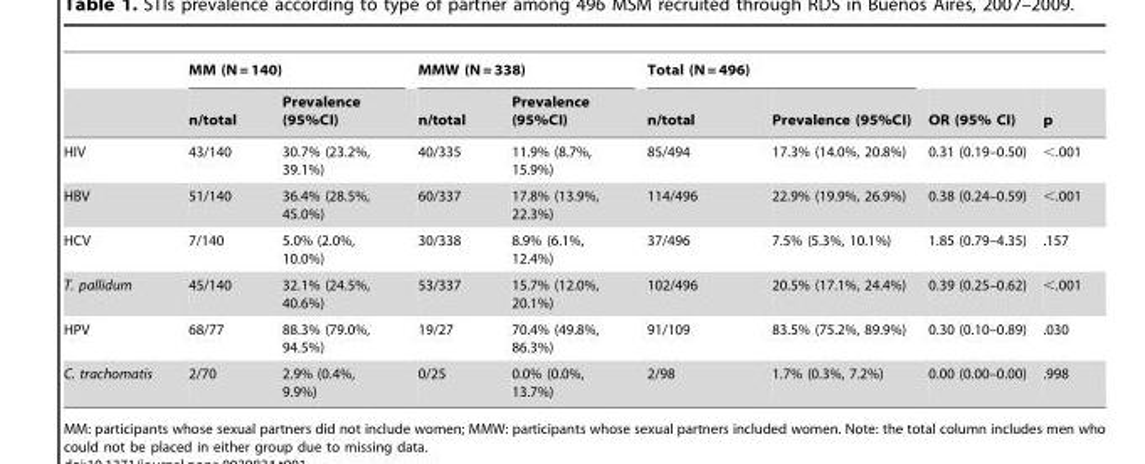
<table><thead><tr><td rowspan="2"></td><td colspan="2">MM (N = 140)</td><td colspan="2">MMW (N = 338)</td><td colspan="2">Total (N = 496)</td><td rowspan="2">OR (95% CI)</td><td rowspan="2">p</td></tr><tr><td>n/total</td><td>Prevalence (95%CI)</td><td>n/total</td><td>Prevalence (95%CI)</td><td>n/total</td><td>Prevalence (95%CI)</td></tr></thead><tbody><tr><td>HIV</td><td>43/140</td><td>30.7% (23.2%, 39.1%)</td><td>40/335</td><td>11.9% (8.7%, 15.9%)</td><td>85/494</td><td>17.3% (14.0%, 20.8%)</td><td>0.31 (0.19–0.50)</td><td>&lt;.001</td></tr><tr><td>HBV</td><td>51/140</td><td>36.4% (28.5%, 45.0%)</td><td>60/337</td><td>17.8% (13.9%, 22.3%)</td><td>114/496</td><td>22.9% (19.9%, 26.9%)</td><td>0.38 (0.24–0.59)</td><td>&lt;.001</td></tr><tr><td>HCV</td><td>7/140</td><td>5.0% (2.0%, 10.0%)</td><td>30/338</td><td>8.9% (6.1%, 12.4%)</td><td>37/496</td><td>7.5% (5.3%, 10.1%)</td><td>1.85 (0.79–4.35)</td><td>.157</td></tr><tr><td>T. pallidum</td><td>45/140</td><td>32.1% (24.5%, 40.6%)</td><td>53/337</td><td>15.7% (12.0%, 20.1%)</td><td>102/496</td><td>20.5% (17.1%, 24.4%)</td><td>0.39 (0.25–0.62)</td><td>&lt;.001</td></tr><tr><td>HPV</td><td>68/77</td><td>88.3% (79.0%, 94.5%)</td><td>19/27</td><td>70.4% (49.8%, 86.3%)</td><td>91/109</td><td>83.5% (75.2%, 89.9%)</td><td>0.30 (0.10–0.89)</td><td>.030</td></tr><tr><td>C. trachomatis</td><td>2/70</td><td>2.9% (0.4%, 9.9%)</td><td>0/25</td><td>0.0% (0.0%, 13.7%)</td><td>2/98</td><td>1.7% (0.3%, 7.2%)</td><td>0.00 (0.00–0.00)</td><td>.998</td></tr></tbody></table>